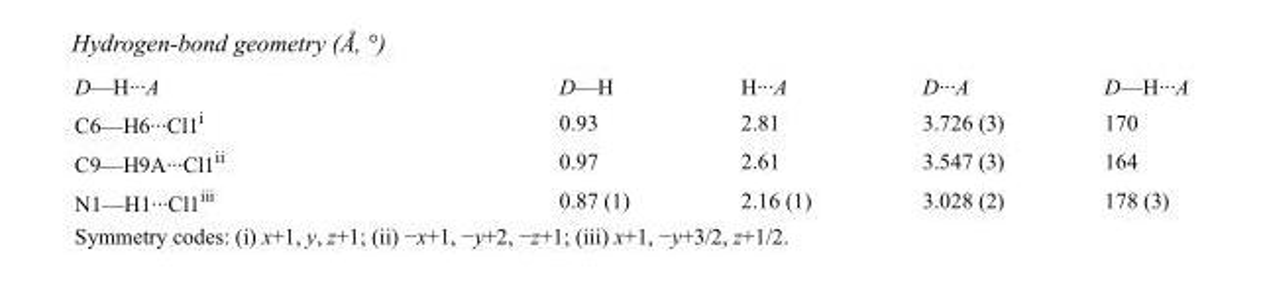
<table><tbody><tr><td>D—H···A</td><td>D—H</td><td>H···A</td><td>D···A</td><td>D—H···A</td></tr><tr><td>C6—H6···Cl1<sup>i</sup></td><td>0.93</td><td>2.81</td><td>3.726 (3)</td><td>170</td></tr><tr><td>C9—H9A···Cl1<sup>ii</sup></td><td>0.97</td><td>2.61</td><td>3.547 (3)</td><td>164</td></tr><tr><td>N1—H1···Cl1<sup>iii</sup></td><td>0.87 (1)</td><td>2.16 (1)</td><td>3.028 (2)</td><td>178 (3)</td></tr></tbody></table>